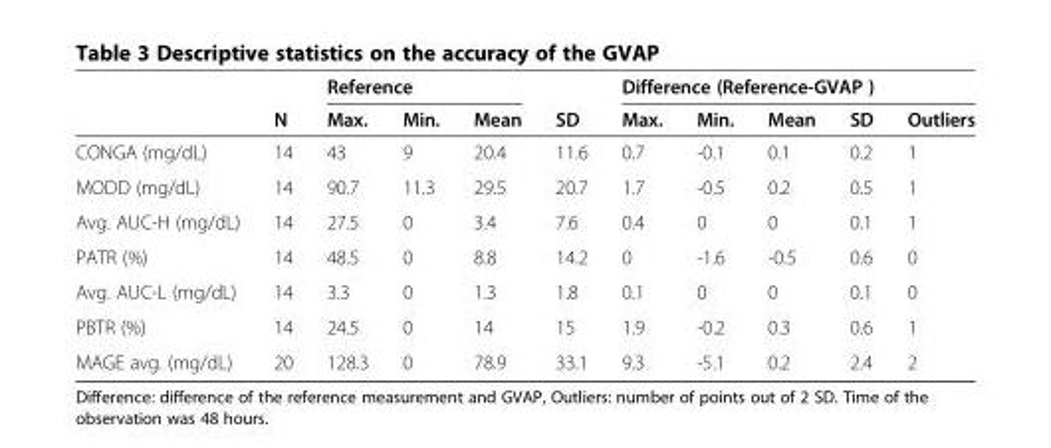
<table><thead><tr><td rowspan="2"></td><td rowspan="2">N</td><td colspan="3">Reference</td><td rowspan="2">SD</td><td colspan="5">Difference (Reference-GVAP )</td></tr><tr><td>Max.</td><td>Min.</td><td>Mean</td><td>Max.</td><td>Min.</td><td>Mean</td><td>SD</td><td>Outliers</td></tr></thead><tbody><tr><td>CONGA (mg/dL)</td><td>14</td><td>43</td><td>9</td><td>20.4</td><td>11.6</td><td>0.7</td><td>-0.1</td><td>0.1</td><td>0.2</td><td>1</td></tr><tr><td>MODD (mg/dL)</td><td>14</td><td>90.7</td><td>11.3</td><td>29.5</td><td>20.7</td><td>1.7</td><td>-0.5</td><td>0.2</td><td>0.5</td><td>1</td></tr><tr><td>Avg. AUC-H (mg/dL)</td><td>14</td><td>27.5</td><td>0</td><td>3.4</td><td>7.6</td><td>0.4</td><td>0</td><td>0</td><td>0.1</td><td>1</td></tr><tr><td>PATR (%)</td><td>14</td><td>48.5</td><td>0</td><td>8.8</td><td>14.2</td><td>0</td><td>-1.6</td><td>-0.5</td><td>0.6</td><td>0</td></tr><tr><td>Avg. AUC-L (mg/dL)</td><td>14</td><td>3.3</td><td>0</td><td>1.3</td><td>1.8</td><td>0.1</td><td>0</td><td>0</td><td>0.1</td><td>0</td></tr><tr><td>PBTR (%)</td><td>14</td><td>24.5</td><td>0</td><td>14</td><td>15</td><td>1.9</td><td>-0.2</td><td>0.3</td><td>0.6</td><td>1</td></tr><tr><td>MAGE avg. (mg/dL)</td><td>20</td><td>128.3</td><td>0</td><td>78.9</td><td>33.1</td><td>9.3</td><td>-5.1</td><td>0.2</td><td>2.4</td><td>2</td></tr></tbody></table>